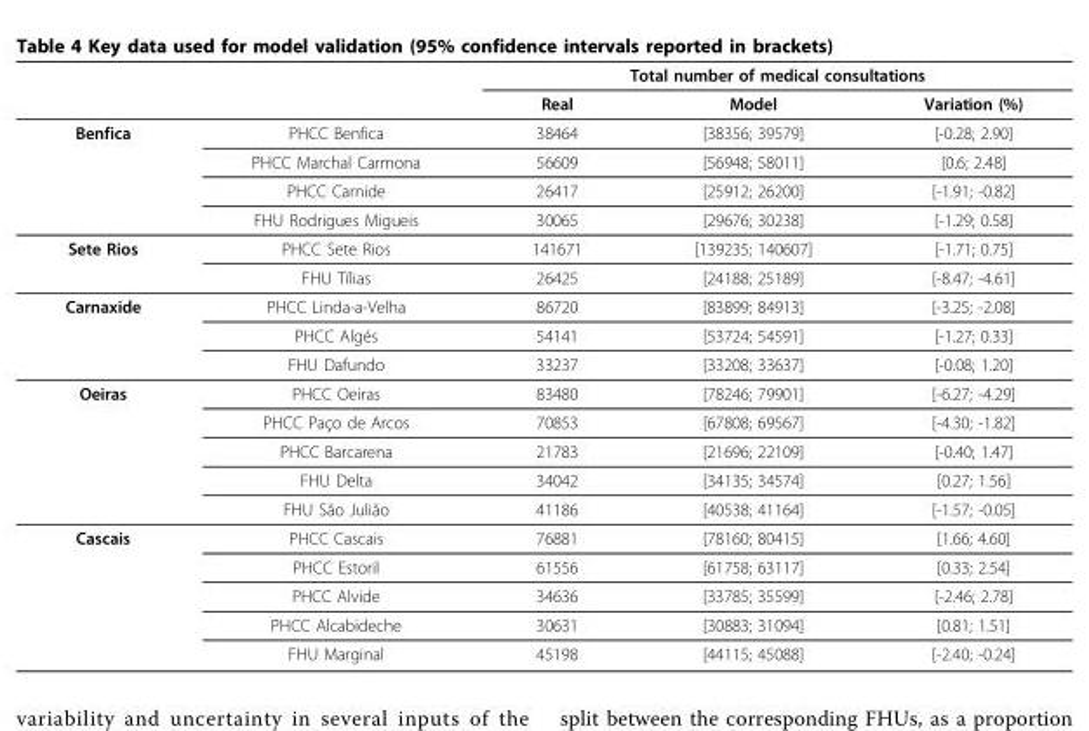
<table><thead><tr><td rowspan="2"></td><td rowspan="2"></td><td colspan="3">Total number of medical consultations</td></tr><tr><td>Real</td><td>Model</td><td>Variation (%)</td></tr></thead><tbody><tr><td rowspan="4">Benfica</td><td>PHCC Benfica</td><td>38464</td><td>[38356; 39579]</td><td>[-0.28; 2.90]</td></tr><tr><td>PHCC Marchal Carmona</td><td>56609</td><td>[56948; 58011]</td><td>[0.6; 2.48]</td></tr><tr><td>PHCC Carnide</td><td>26417</td><td>[25912; 26200]</td><td>[-1.91; -0.82]</td></tr><tr><td>FHU Rodrigues Migueis</td><td>30065</td><td>[29676; 30238]</td><td>[-1.29; 0.58]</td></tr><tr><td rowspan="2">Sete Rios</td><td>PHCC Sete Rios</td><td>141671</td><td>[139235; 140607]</td><td>[-1.71; 0.75]</td></tr><tr><td>FHU Tílias</td><td>26425</td><td>[24188; 25189]</td><td>[-8.47; -4.61]</td></tr><tr><td rowspan="3">Carnaxide</td><td>PHCC Linda-a-Velha</td><td>86720</td><td>[83899; 84913]</td><td>[-3.25; -2.08]</td></tr><tr><td>PHCC Algés</td><td>54141</td><td>[53724; 54591]</td><td>[-1.27; 0.33]</td></tr><tr><td>FHU Dafundo</td><td>33237</td><td>[33208; 33637]</td><td>[-0.08; 1.20]</td></tr><tr><td rowspan="5">Oeiras</td><td>PHCC Oeiras</td><td>83480</td><td>[78246; 79901]</td><td>[-6.27; -4.29]</td></tr><tr><td>PHCC Paço de Arcos</td><td>70853</td><td>[67808; 69567]</td><td>[-4.30; -1.82]</td></tr><tr><td>PHCC Barcarena</td><td>21783</td><td>[21696; 22109]</td><td>[-0.40; 1.47]</td></tr><tr><td>FHU Delta</td><td>34042</td><td>[34135; 34574]</td><td>[0.27; 1.56]</td></tr><tr><td>FHU São Julião</td><td>41186</td><td>[40538; 41164]</td><td>[-1.57; -0.05]</td></tr><tr><td rowspan="5">Cascais</td><td>PHCC Cascais</td><td>76881</td><td>[78160; 80415]</td><td>[1.66; 4.60]</td></tr><tr><td>PHCC Estoril</td><td>61556</td><td>[61758; 63117]</td><td>[0.33; 2.54]</td></tr><tr><td>PHCC Alvide</td><td>34636</td><td>[33785; 35599]</td><td>[-2.46; 2.78]</td></tr><tr><td>PHCC Alcabideche</td><td>30631</td><td>[30883; 31094]</td><td>[0.81; 1.51]</td></tr><tr><td>FHU Marginal</td><td>45198</td><td>[44115; 45088]</td><td>[-2.40; -0.24]</td></tr></tbody></table>